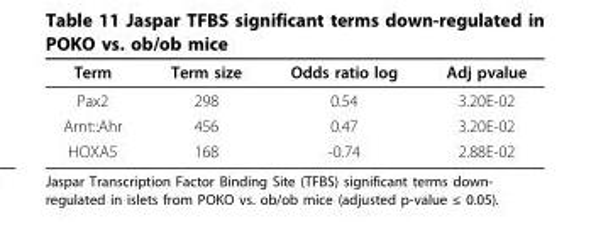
<table><thead><tr><td>Term</td><td>Term size</td><td>Odds ratio log</td><td>Adj pvalue</td></tr></thead><tbody><tr><td>Pax2</td><td>298</td><td>0.54</td><td>3.20E-02</td></tr><tr><td>Arnt::Ahr</td><td>456</td><td>0.47</td><td>3.20E-02</td></tr><tr><td>HOXA5</td><td>168</td><td>-0.74</td><td>2.88E-02</td></tr></tbody></table>